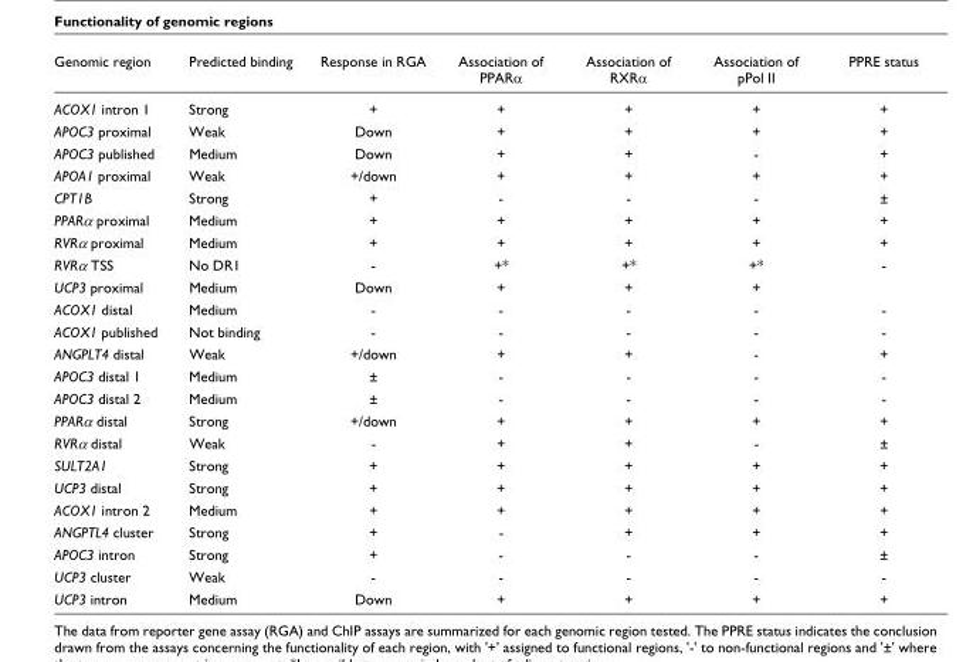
<table><thead><tr><td>Genomic region</td><td>Predicted binding</td><td>Response in RGA</td><td>Association of PPARα</td><td>Association of RXRα</td><td>Association of pPol II</td><td>PPRE status</td></tr></thead><tbody><tr><td>ACOX1 intron 1</td><td>Strong</td><td>+</td><td>+</td><td>+</td><td>+</td><td>+</td></tr><tr><td>APOC3 proximal</td><td>Weak</td><td>Down</td><td>+</td><td>+</td><td>+</td><td>+</td></tr><tr><td>APOC3 published</td><td>Medium</td><td>Down</td><td>+</td><td>+</td><td>-</td><td>+</td></tr><tr><td>APOA1 proximal</td><td>Weak</td><td>+/down</td><td>+</td><td>+</td><td>+</td><td>+</td></tr><tr><td>CPT1B</td><td>Strong</td><td>+</td><td>-</td><td>-</td><td>-</td><td>±</td></tr><tr><td>PPARα proximal</td><td>Medium</td><td>+</td><td>+</td><td>+</td><td>+</td><td>+</td></tr><tr><td>RVRα proximal</td><td>Medium</td><td>+</td><td>+</td><td>+</td><td>+</td><td>+</td></tr><tr><td>RVRα TSS</td><td>No DR1</td><td>-</td><td>+*</td><td>+*</td><td>+*</td><td>-</td></tr><tr><td>UCP3 proximal</td><td>Medium</td><td>Down</td><td>+</td><td>+</td><td>+</td><td></td></tr><tr><td>ACOX1 distal</td><td>Medium</td><td>-</td><td>-</td><td>-</td><td>-</td><td>-</td></tr><tr><td>ACOX1 published</td><td>Not binding</td><td>-</td><td>-</td><td>-</td><td>-</td><td>-</td></tr><tr><td>ANGPLT4 distal</td><td>Weak</td><td>+/down</td><td>+</td><td>+</td><td>-</td><td>+</td></tr><tr><td>APOC3 distal 1</td><td>Medium</td><td>±</td><td>-</td><td>-</td><td>-</td><td>-</td></tr><tr><td>APOC3 distal 2</td><td>Medium</td><td>±</td><td>-</td><td>-</td><td>-</td><td>-</td></tr><tr><td>PPARα distal</td><td>Strong</td><td>+/down</td><td>+</td><td>+</td><td>+</td><td>+</td></tr><tr><td>RVRα distal</td><td>Weak</td><td>-</td><td>+</td><td>+</td><td>-</td><td>±</td></tr><tr><td>SULT2A1</td><td>Strong</td><td>+</td><td>+</td><td>+</td><td>+</td><td>+</td></tr><tr><td>UCP3 distal</td><td>Strong</td><td>+</td><td>+</td><td>+</td><td>+</td><td>+</td></tr><tr><td>ACOX1 intron 2</td><td>Medium</td><td>+</td><td>+</td><td>+</td><td>+</td><td>+</td></tr><tr><td>ANGPTL4 cluster</td><td>Strong</td><td>+</td><td>-</td><td>+</td><td>+</td><td>+</td></tr><tr><td>APOC3 intron</td><td>Strong</td><td>+</td><td>-</td><td>-</td><td>-</td><td>±</td></tr><tr><td>UCP3 cluster</td><td>Weak</td><td>-</td><td>-</td><td>-</td><td>-</td><td>-</td></tr><tr><td>UCP3 intron</td><td>Medium</td><td>Down</td><td>+</td><td>+</td><td>+</td><td>+</td></tr></tbody></table>